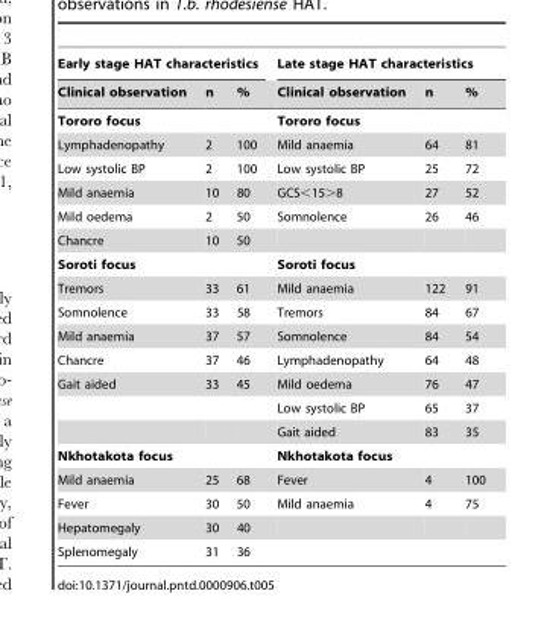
<table><thead><tr><td colspan="3">Early stage HAT characteristics</td><td colspan="3">Late stage HAT characteristics</td></tr><tr><td>Clinical observation</td><td>n</td><td>%</td><td>Clinical observation</td><td>n</td><td>%</td></tr></thead><tbody><tr><td>Tororo focus</td><td></td><td></td><td>Tororo focus</td><td></td><td></td></tr><tr><td>Lymphadenopathy</td><td>2</td><td>100</td><td>Mild anaemia</td><td>64</td><td>81</td></tr><tr><td>Low systolic BP</td><td>2</td><td>100</td><td>Low systolic BP</td><td>25</td><td>72</td></tr><tr><td>Mild anaemia</td><td>10</td><td>80</td><td>GCS&lt;15&gt;8</td><td>27</td><td>52</td></tr><tr><td>Mild oedema</td><td>2</td><td>50</td><td>Somnolence</td><td>26</td><td>46</td></tr><tr><td>Chancre</td><td>10</td><td>50</td><td></td><td></td><td></td></tr><tr><td>Soroti focus</td><td></td><td></td><td>Soroti focus</td><td></td><td></td></tr><tr><td>Tremors</td><td>33</td><td>61</td><td>Mild anaemia</td><td>122</td><td>91</td></tr><tr><td>Somnolence</td><td>33</td><td>58</td><td>Tremors</td><td>84</td><td>67</td></tr><tr><td>Mild anaemia</td><td>37</td><td>57</td><td>Somnolence</td><td>84</td><td>54</td></tr><tr><td>Chancre</td><td>37</td><td>46</td><td>Lymphadenopathy</td><td>64</td><td>48</td></tr><tr><td rowspan="3">Gait aided</td><td>33</td><td>45</td><td>Mild oedema</td><td>76</td><td>47</td></tr><tr><td></td><td></td><td>Low systolic BP</td><td>65</td><td>37</td></tr><tr><td></td><td></td><td>Gait aided</td><td>83</td><td>35</td></tr><tr><td>Nkhotakota focus</td><td></td><td></td><td>Nkhotakota focus</td><td></td><td></td></tr><tr><td>Mild anaemia</td><td>25</td><td>68</td><td>Fever</td><td>4</td><td>100</td></tr><tr><td>Fever</td><td>30</td><td>50</td><td>Mild anaemia</td><td>4</td><td>75</td></tr><tr><td>Hepatomegaly</td><td>30</td><td>40</td><td></td><td></td><td></td></tr><tr><td>Splenomegaly</td><td>31</td><td>36</td><td></td><td></td><td></td></tr></tbody></table>